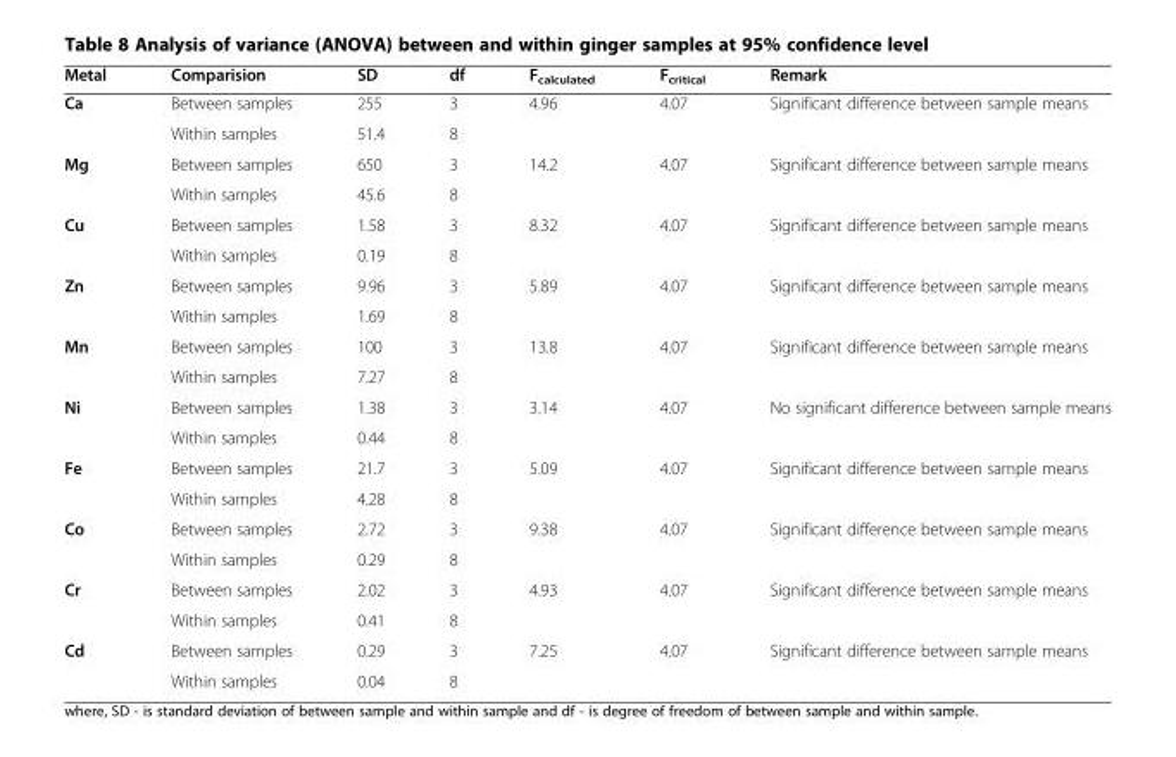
<table><thead><tr><td>Metal</td><td>Comparision</td><td>SD</td><td>df</td><td>F<sub>calculated</sub></td><td>F<sub>critical</sub></td><td>Remark</td></tr></thead><tbody><tr><td rowspan="2">Ca</td><td>Between samples</td><td>255</td><td>3</td><td rowspan="2">4.96</td><td rowspan="2">4.07</td><td rowspan="2">Significant difference between sample means</td></tr><tr><td>Within samples</td><td>51.4</td><td>8</td></tr><tr><td rowspan="2">Mg</td><td>Between samples</td><td>650</td><td>3</td><td rowspan="2">14.2</td><td rowspan="2">4.07</td><td rowspan="2">Significant difference between sample means</td></tr><tr><td>Within samples</td><td>45.6</td><td>8</td></tr><tr><td rowspan="2">Cu</td><td>Between samples</td><td>1.58</td><td>3</td><td rowspan="2">8.32</td><td rowspan="2">4.07</td><td rowspan="2">Significant difference between sample means</td></tr><tr><td>Within samples</td><td>0.19</td><td>8</td></tr><tr><td rowspan="2">Zn</td><td>Between samples</td><td>9.96</td><td>3</td><td rowspan="2">5.89</td><td rowspan="2">4.07</td><td rowspan="2">Significant difference between sample means</td></tr><tr><td>Within samples</td><td>1.69</td><td>8</td></tr><tr><td rowspan="2">Mn</td><td>Between samples</td><td>100</td><td>3</td><td rowspan="2">13.8</td><td rowspan="2">4.07</td><td rowspan="2">Significant difference between sample means</td></tr><tr><td>Within samples</td><td>7.27</td><td>8</td></tr><tr><td rowspan="2">Ni</td><td>Between samples</td><td>1.38</td><td>3</td><td rowspan="2">3.14</td><td rowspan="2">4.07</td><td rowspan="2">No significant difference between sample means</td></tr><tr><td>Within samples</td><td>0.44</td><td>8</td></tr><tr><td rowspan="2">Fe</td><td>Between samples</td><td>21.7</td><td>3</td><td rowspan="2">5.09</td><td rowspan="2">4.07</td><td rowspan="2">Significant difference between sample means</td></tr><tr><td>Within samples</td><td>4.28</td><td>8</td></tr><tr><td rowspan="2">Co</td><td>Between samples</td><td>2.72</td><td>3</td><td rowspan="2">9.38</td><td rowspan="2">4.07</td><td rowspan="2">Significant difference between sample means</td></tr><tr><td>Within samples</td><td>0.29</td><td>8</td></tr><tr><td rowspan="2">Cr</td><td>Between samples</td><td>2.02</td><td>3</td><td rowspan="2">4.93</td><td rowspan="2">4.07</td><td rowspan="2">Significant difference between sample means</td></tr><tr><td>Within samples</td><td>0.41</td><td>8</td></tr><tr><td rowspan="2">Cd</td><td>Between samples</td><td>0.29</td><td>3</td><td rowspan="2">7.25</td><td rowspan="2">4.07</td><td rowspan="2">Significant difference between sample means</td></tr><tr><td>Within samples</td><td>0.04</td><td>8</td></tr></tbody></table>